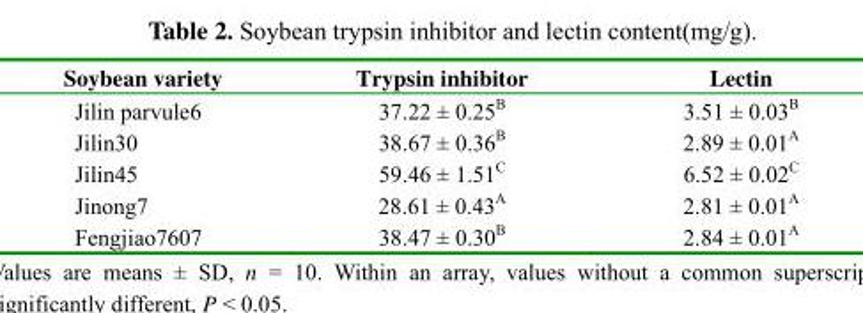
<table><thead><tr><td>Soybean variety</td><td>Trypsin inhibitor</td><td>Lectin</td></tr></thead><tbody><tr><td>Jilin parvule6</td><td>37.22 ± 0.25<sup>B</sup></td><td>3.51 ± 0.03<sup>B</sup></td></tr><tr><td>Jilin30</td><td>38.67 ± 0.36<sup>B</sup></td><td>2.89 ± 0.01<sup>A</sup></td></tr><tr><td>Jilin45</td><td>59.46 ± 1.51<sup>C</sup></td><td>6.52 ± 0.02<sup>C</sup></td></tr><tr><td>Jinong7</td><td>28.61 ± 0.43<sup>A</sup></td><td>2.81 ± 0.01<sup>A</sup></td></tr><tr><td>Fengjiao7607</td><td>38.47 ± 0.30<sup>B</sup></td><td>2.84 ± 0.01<sup>A</sup></td></tr></tbody></table>